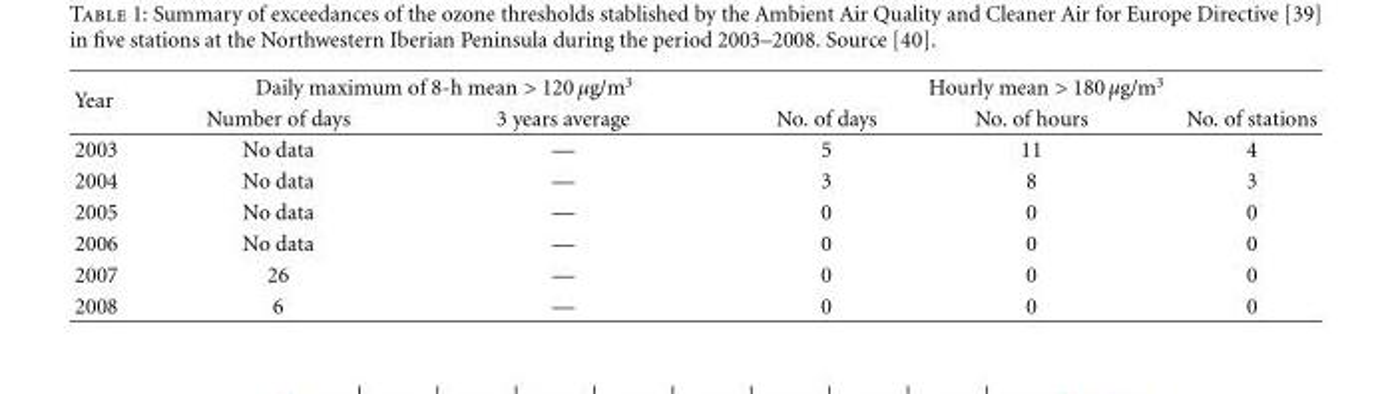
<table><thead><tr><td rowspan="2">Year</td><td colspan="2">Daily maximum of 8-h mean &gt; 120 µg/m<sup>3</sup></td><td colspan="3">Hourly mean &gt; 180 µg/m<sup>3</sup></td></tr><tr><td>Number of days</td><td>3 years average</td><td>No. of days</td><td>No. of hours</td><td>No. of stations</td></tr></thead><tbody><tr><td>2003</td><td>No data</td><td>—</td><td>5</td><td>11</td><td>4</td></tr><tr><td>2004</td><td>No data</td><td>—</td><td>3</td><td>8</td><td>3</td></tr><tr><td>2005</td><td>No data</td><td>—</td><td>0</td><td>0</td><td>0</td></tr><tr><td>2006</td><td>No data</td><td>—</td><td>0</td><td>0</td><td>0</td></tr><tr><td>2007</td><td>26</td><td>—</td><td>0</td><td>0</td><td>0</td></tr><tr><td>2008</td><td>6</td><td>—</td><td>0</td><td>0</td><td>0</td></tr></tbody></table>